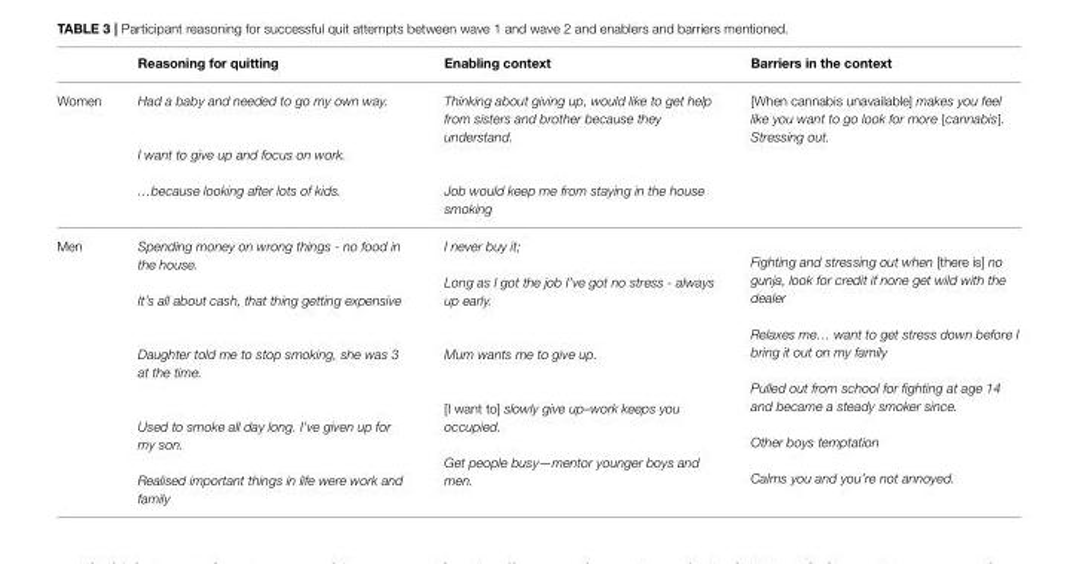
<table><thead><tr><td></td><td>Reasoning for quitting</td><td>Enabling context</td><td>Barriers in the context</td></tr></thead><tbody><tr><td>Women</td><td>Had a baby and needed to go my own way. I want to give up and focus on work. …because looking after lots of kids.</td><td>Thinking about giving up, would like to get help from sisters and brother because they understand. Job would keep me from staying in the house smoking</td><td>[When cannabis unavailable] makes you feel like you want to go look for more [cannabis]. Stressing out.</td></tr><tr><td>Men</td><td>Spending money on wrong things - no food in the house. It’s all about cash, that thing getting expensive Daughter told me to stop smoking, she was 3 at the time. Used to smoke all day long. I’ve given up for my son. Realised important things in life were work and family</td><td>I never buy it; Long as I got the job I’ve got no stress - always up early. Mum wants me to give up. [I want to] slowly give up–work keeps you occupied. Get people busy—mentor younger boys and men.</td><td>Fighting and stressing out when [there is] no gunja, look for credit if none get wild with the dealer Relaxes me… want to get stress down before I bring it out on my family Pulled out from school for fighting at age 14 and became a steady smoker since. Other boys temptation Calms you and you’re not annoyed.</td></tr></tbody></table>